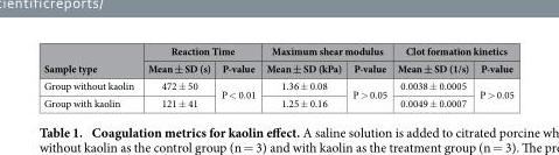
<table><thead><tr><td rowspan="2">Sample type</td><td colspan="2">Reaction Time</td><td colspan="2">Maximum shear modulus</td><td colspan="2">Clot formation kinetics</td></tr><tr><td>Mean ± SD (s)</td><td>P-value</td><td>Mean ± SD (kPa)</td><td>P-value</td><td>Mean ± SD (1/s)</td><td>P-value</td></tr></thead><tbody><tr><td>Group without kaolin</td><td>472 ± 50</td><td rowspan="2">P &lt; 0.01</td><td>1.36 ± 0.08</td><td rowspan="2">P &gt; 0.05</td><td>0.0038 ± 0.0005</td><td rowspan="2">P &gt; 0.05</td></tr><tr><td>Group with kaolin</td><td>121 ± 41</td><td>1.25 ± 0.16</td><td>0.0049 ± 0.0007</td></tr></tbody></table>